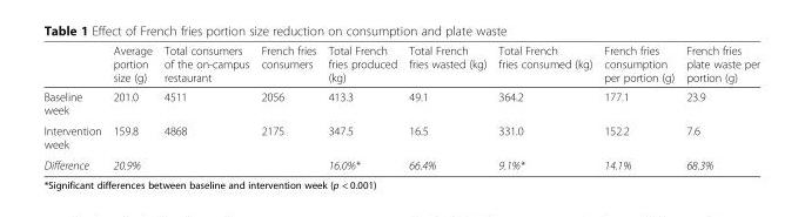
<table><thead><tr><td></td><td>Average portion size (g)</td><td>Total consumers of the on-campus restaurant</td><td>French fries consumers</td><td>Total French fries produced (kg)</td><td>Total French fries wasted (kg)</td><td>Total French fries consumed (kg)</td><td>French fries consumption per portion (g)</td><td>French fries plate waste per portion (g)</td></tr></thead><tbody><tr><td>Baseline week</td><td>201.0</td><td>4511</td><td>2056</td><td>413.3</td><td>49.1</td><td>364.2</td><td>177.1</td><td>23.9</td></tr><tr><td>Intervention week</td><td>159.8</td><td>4868</td><td>2175</td><td>347.5</td><td>16.5</td><td>331.0</td><td>152.2</td><td>7.6</td></tr><tr><td>Difference</td><td>20.9%</td><td></td><td></td><td>16.0%*</td><td>66.4%</td><td>9.1%*</td><td>14.1%</td><td>68.3%</td></tr></tbody></table>